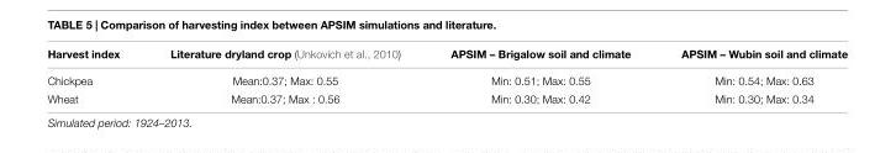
<table><thead><tr><td>Harvest index</td><td>Literature dryland crop (Unkovich et al., 2010)</td><td>APSIM – Brigalow soil and climate</td><td>APSIM – Wubin soil and climate</td></tr></thead><tbody><tr><td>Chickpea</td><td>Mean:0.37; Max: 0.55</td><td>Min: 0.51; Max: 0.55</td><td>Min: 0.54; Max: 0.63</td></tr><tr><td>Wheat</td><td>Mean:0.37; Max : 0.56</td><td>Min: 0.30; Max: 0.42</td><td>Min: 0.30; Max: 0.34</td></tr></tbody></table>